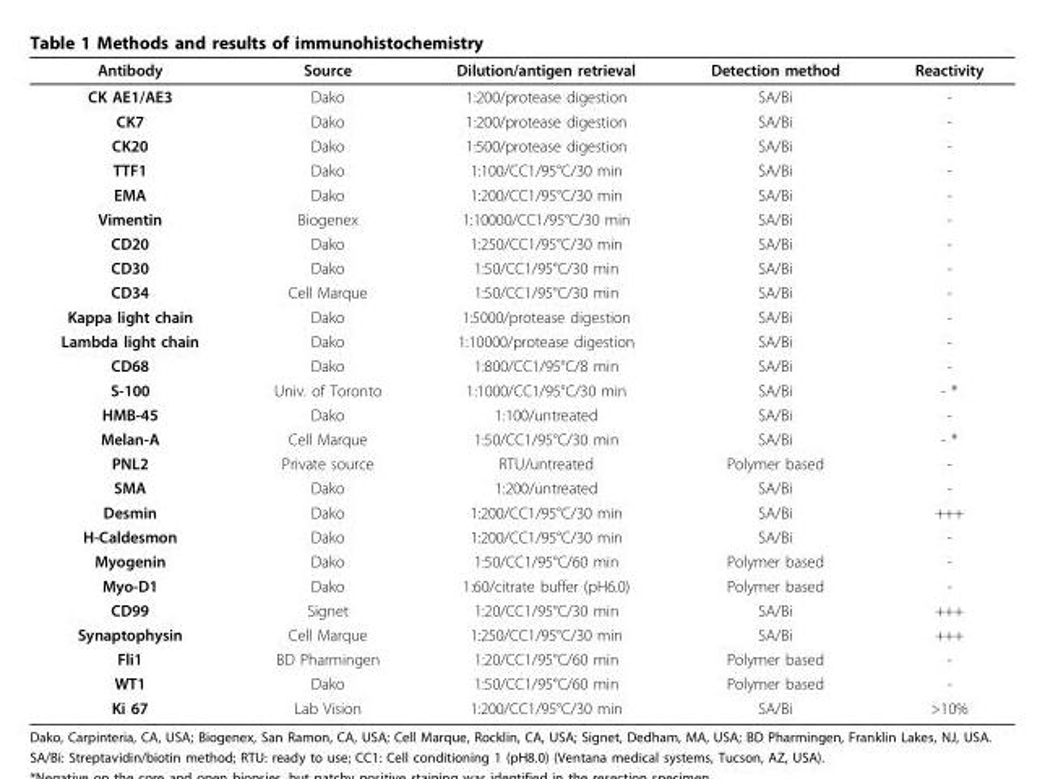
<table><thead><tr><td>Antibody</td><td>Source</td><td>Dilution/antigen retrieval</td><td>Detection method</td><td>Reactivity</td></tr></thead><tbody><tr><td>CK AE1/AE3</td><td>Dako</td><td>1:200/protease digestion</td><td>SA/Bi</td><td>-</td></tr><tr><td>CK7</td><td>Dako</td><td>1:200/protease digestion</td><td>SA/Bi</td><td>-</td></tr><tr><td>CK20</td><td>Dako</td><td>1:500/protease digestion</td><td>SA/Bi</td><td>-</td></tr><tr><td>TTF1</td><td>Dako</td><td>1:100/CC1/95°C/30 min</td><td>SA/Bi</td><td>-</td></tr><tr><td>EMA</td><td>Dako</td><td>1:200/CC1/95°C/30 min</td><td>SA/Bi</td><td>-</td></tr><tr><td>Vimentin</td><td>Biogenex</td><td>1:10000/CC1/95°C/30 min</td><td>SA/Bi</td><td>-</td></tr><tr><td>CD20</td><td>Dako</td><td>1:250/CC1/95°C/30 min</td><td>SA/Bi</td><td>-</td></tr><tr><td>CD30</td><td>Dako</td><td>1:50/CC1/95°C/30 min</td><td>SA/Bi</td><td>-</td></tr><tr><td>CD34</td><td>Cell Marque</td><td>1:50/CC1/95°C/30 min</td><td>SA/Bi</td><td>-</td></tr><tr><td>Kappa light chain</td><td>Dako</td><td>1:5000/protease digestion</td><td>SA/Bi</td><td>-</td></tr><tr><td>Lambda light chain</td><td>Dako</td><td>1:10000/protease digestion</td><td>SA/Bi</td><td>-</td></tr><tr><td>CD68</td><td>Dako</td><td>1:800/CC1/95°C/8 min</td><td>SA/Bi</td><td>-</td></tr><tr><td>S-100</td><td>Univ. of Toronto</td><td>1:1000/CC1/95°C/30 min</td><td>SA/Bi</td><td>- *</td></tr><tr><td>HMB-45</td><td>Dako</td><td>1:100/untreated</td><td>SA/Bi</td><td>-</td></tr><tr><td>Melan-A</td><td>Cell Marque</td><td>1:50/CC1/95°C/30 min</td><td>SA/Bi</td><td>- *</td></tr><tr><td>PNL2</td><td>Private source</td><td>RTU/untreated</td><td>Polymer based</td><td>-</td></tr><tr><td>SMA</td><td>Dako</td><td>1:200/untreated</td><td>SA/Bi</td><td>-</td></tr><tr><td>Desmin</td><td>Dako</td><td>1:200/CC1/95°C/30 min</td><td>SA/Bi</td><td>+++</td></tr><tr><td>H-Caldesmon</td><td>Dako</td><td>1:200/CC1/95°C/30 min</td><td>SA/Bi</td><td>-</td></tr><tr><td>Myogenin</td><td>Dako</td><td>1:50/CC1/95°C/60 min</td><td>Polymer based</td><td>-</td></tr><tr><td>Myo-D1</td><td>Dako</td><td>1:60/citrate buffer (pH6.0)</td><td>Polymer based</td><td>-</td></tr><tr><td>CD99</td><td>Signet</td><td>1:20/CC1/95°C/30 min</td><td>SA/Bi</td><td>+++</td></tr><tr><td>Synaptophysin</td><td>Cell Marque</td><td>1:250/CC1/95°C/30 min</td><td>SA/Bi</td><td>+++</td></tr><tr><td>Fli1</td><td>BD Pharmingen</td><td>1:20/CC1/95°C/60 min</td><td>Polymer based</td><td>-</td></tr><tr><td>WT1</td><td>Dako</td><td>1:50/CC1/95°C/60 min</td><td>Polymer based</td><td>-</td></tr><tr><td>Ki 67</td><td>Lab Vision</td><td>1:200/CC1/95°C/30 min</td><td>SA/Bi</td><td>&gt;10%</td></tr></tbody></table>